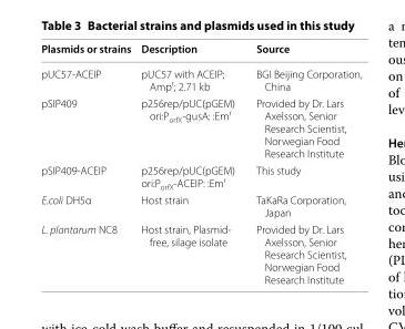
<table><thead><tr><td>Plasmids or strains</td><td>Description</td><td>Source</td></tr></thead><tbody><tr><td>pUC57-ACEIP</td><td>pUC57 with ACEIP; Amp<sup>r</sup>; 2.71 kb</td><td>BGI Beijing Corporation, China</td></tr><tr><td>pSIP409</td><td>p256rep/pUC(pGEM) ori:P<sub>orfX</sub>-gusA: :Em<sup>r</sup></td><td>Provided by Dr. Lars Axelsson, Senior Research Scientist, Norwegian Food Research Institute</td></tr><tr><td>pSIP409-ACEIP</td><td>p256rep/pUC(pGEM) ori:P<sub>orfX</sub>-ACEIP: :Em<sup>r</sup></td><td>This study</td></tr><tr><td>E.coli DH5α</td><td>Host strain</td><td>TaKaRa Corporation, Japan</td></tr><tr><td>L. plantarum NC8</td><td>Host strain, Plasmid- free, silage isolate</td><td>Provided by Dr. Lars Axelsson, Senior Research Scientist, Norwegian Food Research Institute</td></tr></tbody></table>